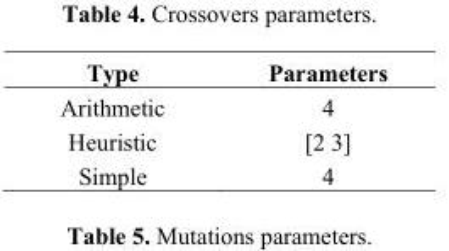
<table><thead><tr><td>Type</td><td>Parameters</td></tr></thead><tbody><tr><td>Arithmetic</td><td>4</td></tr><tr><td>Heuristic</td><td>[2 3]</td></tr><tr><td>Simple</td><td>4</td></tr></tbody></table>